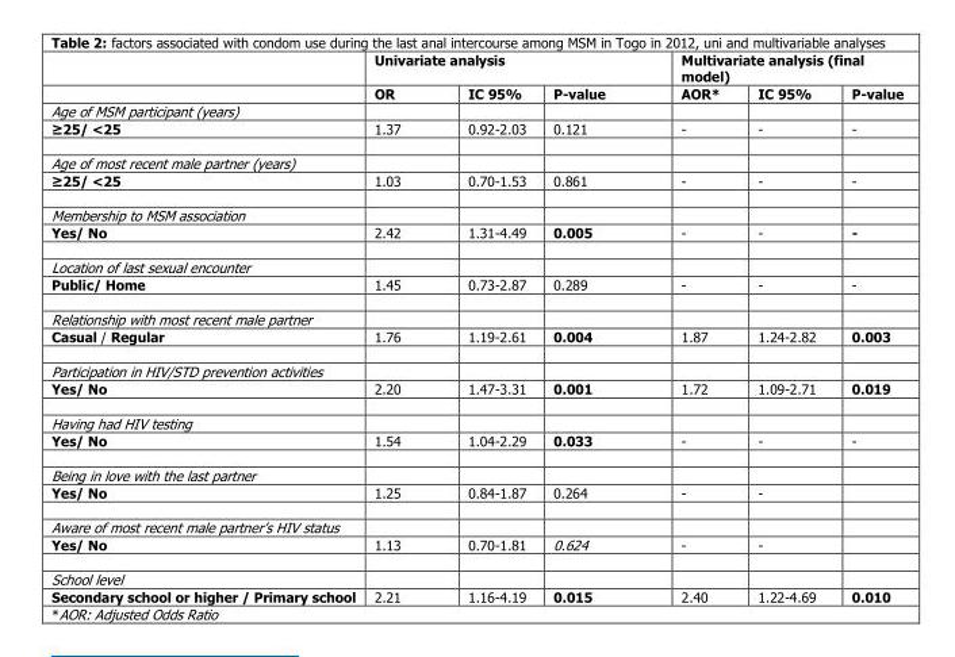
<table><thead><tr><td rowspan="2"></td><td colspan="3">Univariate analysis</td><td colspan="3">Multivariate analysis (final model)</td></tr><tr><td>OR</td><td>IC 95%</td><td>P-value</td><td>AOR*</td><td>IC 95%</td><td>P-value</td></tr></thead><tbody><tr><td colspan="7">Age of MSM participant (years)</td></tr><tr><td>≥25/ &lt;25</td><td>1.37</td><td>0.92-2.03</td><td>0.121</td><td>-</td><td>-</td><td>-</td></tr><tr><td colspan="7">Age of most recent male partner (years)</td></tr><tr><td>≥25/ &lt;25</td><td>1.03</td><td>0.70-1.53</td><td>0.861</td><td>-</td><td>-</td><td>-</td></tr><tr><td colspan="7">Membership to MSM association</td></tr><tr><td>Yes/ No</td><td>2.42</td><td>1.31-4.49</td><td>0.005</td><td>-</td><td>-</td><td>-</td></tr><tr><td colspan="7">Location of last sexual encounter</td></tr><tr><td>Public/ Home</td><td>1.45</td><td>0.73-2.87</td><td>0.289</td><td>-</td><td>-</td><td>-</td></tr><tr><td colspan="7">Relationship with most recent male partner</td></tr><tr><td>Casual / Regular</td><td>1.76</td><td>1.19-2.61</td><td>0.004</td><td>1.87</td><td>1.24-2.82</td><td>0.003</td></tr><tr><td colspan="7">Participation in HIV/STD prevention activities</td></tr><tr><td>Yes/ No</td><td>2.20</td><td>1.47-3.31</td><td>0.001</td><td>1.72</td><td>1.09-2.71</td><td>0.019</td></tr><tr><td colspan="7">Having had HIV testing</td></tr><tr><td>Yes/ No</td><td>1.54</td><td>1.04-2.29</td><td>0.033</td><td>-</td><td>-</td><td>-</td></tr><tr><td colspan="7">Being in love with the last partner</td></tr><tr><td>Yes/ No</td><td>1.25</td><td>0.84-1.87</td><td>0.264</td><td>-</td><td>-</td><td></td></tr><tr><td colspan="7">Aware of most recent male partner’s HIV status</td></tr><tr><td>Yes/ No</td><td>1.13</td><td>0.70-1.81</td><td>0.624</td><td>-</td><td>-</td><td></td></tr><tr><td colspan="7">School level</td></tr><tr><td>Secondary school or higher / Primary school</td><td>2.21</td><td>1.16-4.19</td><td>0.015</td><td>2.40</td><td>1.22-4.69</td><td>0.010</td></tr></tbody></table>